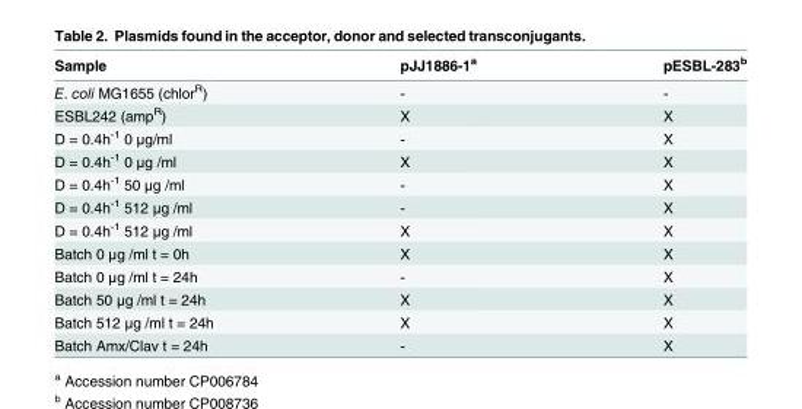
<table><thead><tr><td>Sample</td><td>pJJ1886-1<sup>a</sup></td><td>pESBL-283<sup>b</sup></td></tr></thead><tbody><tr><td>E. coli MG1655 (chlor<sup>R</sup>)</td><td>-</td><td>-</td></tr><tr><td>ESBL242 (amp<sup>R</sup>)</td><td>X</td><td>X</td></tr><tr><td>D = 0.4h<sup>-1</sup> 0 μg/ml</td><td>-</td><td>X</td></tr><tr><td>D = 0.4h<sup>-1</sup> 0 μg /ml</td><td>X</td><td>X</td></tr><tr><td>D = 0.4h<sup>-1</sup> 50 μg /ml</td><td>-</td><td>X</td></tr><tr><td>D = 0.4h<sup>-1</sup> 512 μg /ml</td><td>-</td><td>X</td></tr><tr><td>D = 0.4h<sup>-1</sup> 512 μg /ml</td><td>X</td><td>X</td></tr><tr><td>Batch 0 μg /ml t = 0h</td><td>X</td><td>X</td></tr><tr><td>Batch 0 μg /ml t = 24h</td><td>-</td><td>X</td></tr><tr><td>Batch 50 μg /ml t = 24h</td><td>X</td><td>X</td></tr><tr><td>Batch 512 μg /ml t = 24h</td><td>X</td><td>X</td></tr><tr><td>Batch Amx/Clav t = 24h</td><td>-</td><td>X</td></tr></tbody></table>